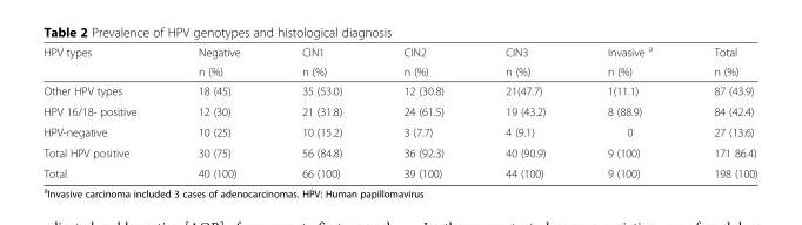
<table><thead><tr><td rowspan="2">HPV types</td><td rowspan="2">Negative n (%)</td><td rowspan="2">CIN1 n (%)</td><td rowspan="2">CIN2 n (%)</td><td rowspan="2">CIN3 n (%)</td><td rowspan="2">Invasive <sup>a</sup> n (%)</td><td rowspan="2">Total n (%)</td></tr><tr></tr></thead><tbody><tr><td>Other HPV types</td><td>18 (45)</td><td>35 (53.0)</td><td>12 (30.8)</td><td>21(47.7)</td><td>1(11.1)</td><td>87 (43.9)</td></tr><tr><td>HPV 16/18- positive</td><td>12 (30)</td><td>21 (31.8)</td><td>24 (61.5)</td><td>19 (43.2)</td><td>8 (88.9)</td><td>84 (42.4)</td></tr><tr><td>HPV-negative</td><td>10 (25)</td><td>10 (15.2)</td><td>3 (7.7)</td><td>4 (9.1)</td><td>0</td><td>27 (13.6)</td></tr><tr><td>Total HPV positive</td><td>30 (75)</td><td>56 (84.8)</td><td>36 (92.3)</td><td>40 (90.9)</td><td>9 (100)</td><td>171 86.4)</td></tr><tr><td>Total</td><td>40 (100)</td><td>66 (100)</td><td>39 (100)</td><td>44 (100)</td><td>9 (100)</td><td>198 (100)</td></tr></tbody></table>